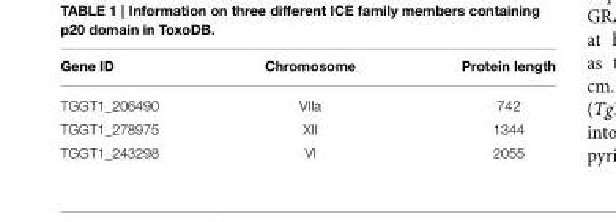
<table><thead><tr><td>Gene ID</td><td>Chromosome</td><td>Protein length</td></tr></thead><tbody><tr><td>TGGT1_206490</td><td>VIIa</td><td>742</td></tr><tr><td>TGGT1_278975</td><td>XII</td><td>1344</td></tr><tr><td>TGGT1_243298</td><td>VI</td><td>2055</td></tr></tbody></table>